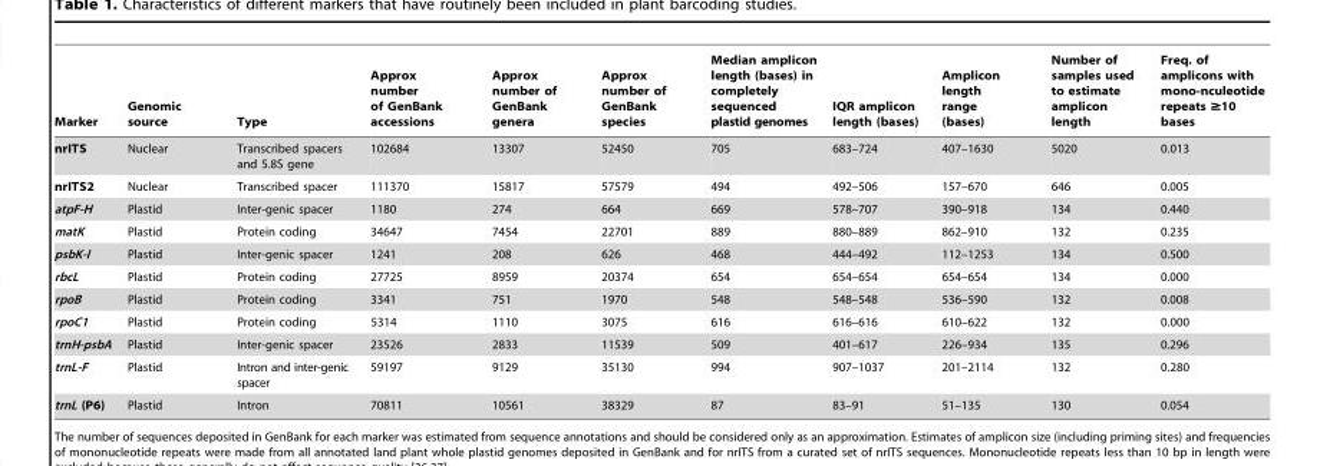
<table><thead><tr><td>Marker</td><td>Genomic source</td><td>Type</td><td>Approx number of GenBank accessions</td><td>Approx number of GenBank genera</td><td>Approx number of GenBank species</td><td>Median amplicon length (bases) in completely sequenced plastid genomes</td><td>IQR amplicon length (bases)</td><td>Amplicon length range (bases)</td><td>Number of samples used to estimate amplicon length</td><td>Freq. of amplicons with mono-nculeotide repeats ≥10 bases</td></tr></thead><tbody><tr><td>nrITS</td><td>Nuclear</td><td>Transcribed spacers and 5.8S gene</td><td>102684</td><td>13307</td><td>52450</td><td>705</td><td>683–724</td><td>407–1630</td><td>5020</td><td>0.013</td></tr><tr><td>nrITS2</td><td>Nuclear</td><td>Transcribed spacer</td><td>111370</td><td>15817</td><td>57579</td><td>494</td><td>492–506</td><td>157–670</td><td>646</td><td>0.005</td></tr><tr><td>atpF-H</td><td>Plastid</td><td>Inter-genic spacer</td><td>1180</td><td>274</td><td>664</td><td>669</td><td>578–707</td><td>390–918</td><td>134</td><td>0.440</td></tr><tr><td>matK</td><td>Plastid</td><td>Protein coding</td><td>34647</td><td>7454</td><td>22701</td><td>889</td><td>880–889</td><td>862–910</td><td>132</td><td>0.235</td></tr><tr><td>psbK-I</td><td>Plastid</td><td>Inter-genic spacer</td><td>1241</td><td>208</td><td>626</td><td>468</td><td>444–492</td><td>112–1253</td><td>134</td><td>0.500</td></tr><tr><td>rbcL</td><td>Plastid</td><td>Protein coding</td><td>27725</td><td>8959</td><td>20374</td><td>654</td><td>654–654</td><td>654–654</td><td>134</td><td>0.000</td></tr><tr><td>rpoB</td><td>Plastid</td><td>Protein coding</td><td>3341</td><td>751</td><td>1970</td><td>548</td><td>548–548</td><td>536–590</td><td>132</td><td>0.008</td></tr><tr><td>rpoC1</td><td>Plastid</td><td>Protein coding</td><td>5314</td><td>1110</td><td>3075</td><td>616</td><td>616–616</td><td>610–622</td><td>132</td><td>0.000</td></tr><tr><td>trnH-psbA</td><td>Plastid</td><td>Inter-genic spacer</td><td>23526</td><td>2833</td><td>11539</td><td>509</td><td>401–617</td><td>226–934</td><td>135</td><td>0.296</td></tr><tr><td>trnL-F</td><td>Plastid</td><td>Intron and inter-genic spacer</td><td>59197</td><td>9129</td><td>35130</td><td>994</td><td>907–1037</td><td>201–2114</td><td>132</td><td>0.280</td></tr><tr><td>trnL (P6)</td><td>Plastid</td><td>Intron</td><td>70811</td><td>10561</td><td>38329</td><td>87</td><td>83–91</td><td>51–135</td><td>130</td><td>0.054</td></tr></tbody></table>